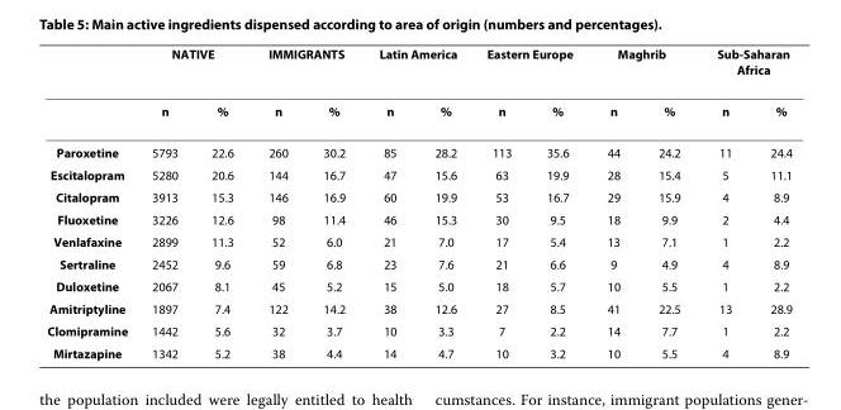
<table><thead><tr><td rowspan="2"></td><td colspan="2">NATIVE</td><td colspan="2">IMMIGRANTS</td><td colspan="2">Latin America</td><td colspan="2">Eastern Europe</td><td colspan="2">Maghrib</td><td colspan="2">Sub-Saharan Africa</td></tr><tr><td>n</td><td>%</td><td>n</td><td>%</td><td>n</td><td>%</td><td>n</td><td>%</td><td>n</td><td>%</td><td>n</td><td>%</td></tr></thead><tbody><tr><td>Paroxetine</td><td>5793</td><td>22.6</td><td>260</td><td>30.2</td><td>85</td><td>28.2</td><td>113</td><td>35.6</td><td>44</td><td>24.2</td><td>11</td><td>24.4</td></tr><tr><td>Escitalopram</td><td>5280</td><td>20.6</td><td>144</td><td>16.7</td><td>47</td><td>15.6</td><td>63</td><td>19.9</td><td>28</td><td>15.4</td><td>5</td><td>11.1</td></tr><tr><td>Citalopram</td><td>3913</td><td>15.3</td><td>146</td><td>16.9</td><td>60</td><td>19.9</td><td>53</td><td>16.7</td><td>29</td><td>15.9</td><td>4</td><td>8.9</td></tr><tr><td>Fluoxetine</td><td>3226</td><td>12.6</td><td>98</td><td>11.4</td><td>46</td><td>15.3</td><td>30</td><td>9.5</td><td>18</td><td>9.9</td><td>2</td><td>4.4</td></tr><tr><td>Venlafaxine</td><td>2899</td><td>11.3</td><td>52</td><td>6.0</td><td>21</td><td>7.0</td><td>17</td><td>5.4</td><td>13</td><td>7.1</td><td>1</td><td>2.2</td></tr><tr><td>Sertraline</td><td>2452</td><td>9.6</td><td>59</td><td>6.8</td><td>23</td><td>7.6</td><td>21</td><td>6.6</td><td>9</td><td>4.9</td><td>4</td><td>8.9</td></tr><tr><td>Duloxetine</td><td>2067</td><td>8.1</td><td>45</td><td>5.2</td><td>15</td><td>5.0</td><td>18</td><td>5.7</td><td>10</td><td>5.5</td><td>1</td><td>2.2</td></tr><tr><td>Amitriptyline</td><td>1897</td><td>7.4</td><td>122</td><td>14.2</td><td>38</td><td>12.6</td><td>27</td><td>8.5</td><td>41</td><td>22.5</td><td>13</td><td>28.9</td></tr><tr><td>Clomipramine</td><td>1442</td><td>5.6</td><td>32</td><td>3.7</td><td>10</td><td>3.3</td><td>7</td><td>2.2</td><td>14</td><td>7.7</td><td>1</td><td>2.2</td></tr><tr><td>Mirtazapine</td><td>1342</td><td>5.2</td><td>38</td><td>4.4</td><td>14</td><td>4.7</td><td>10</td><td>3.2</td><td>10</td><td>5.5</td><td>4</td><td>8.9</td></tr></tbody></table>